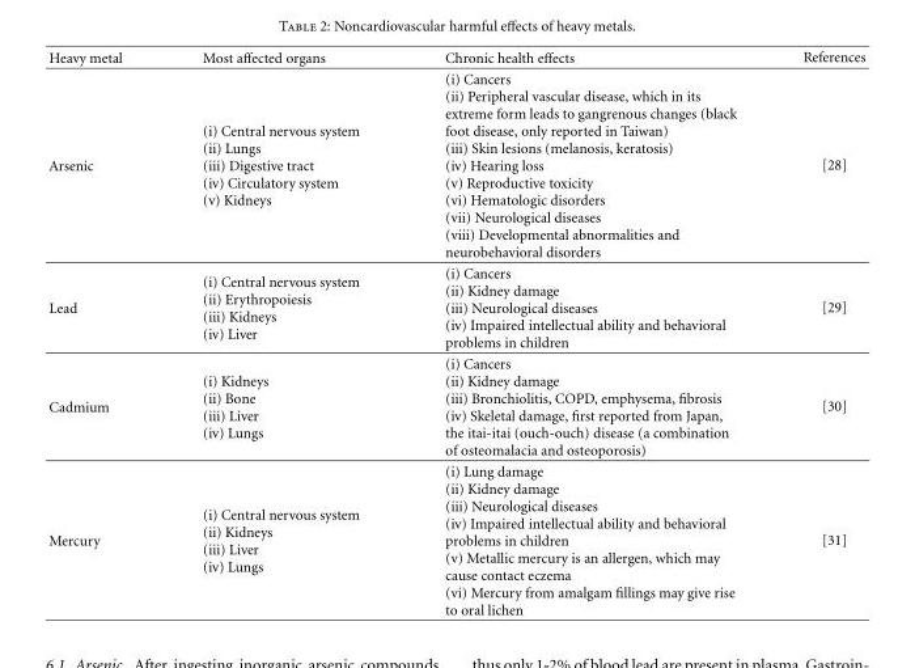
<table><thead><tr><td>Heavy metal</td><td>Most affected organs</td><td>Chronic health effects</td><td>References</td></tr></thead><tbody><tr><td>Arsenic</td><td>(i) Central nervous system (ii) Lungs (iii) Digestive tract (iv) Circulatory system (v) Kidneys</td><td>(i) Cancers (ii) Peripheral vascular disease, which in its extreme form leads to gangrenous changes (black foot disease, only reported in Taiwan) (iii) Skin lesions (melanosis, keratosis) (iv) Hearing loss (v) Reproductive toxicity (vi) Hematologic disorders (vii) Neurological diseases (viii) Developmental abnormalities and neurobehavioral disorders</td><td>[28]</td></tr><tr><td>Lead</td><td>(i) Central nervous system (ii) Erythropoiesis (iii) Kidneys (iv) Liver</td><td>(i) Cancers (ii) Kidney damage (iii) Neurological diseases (iv) Impaired intellectual ability and behavioral problems in children</td><td>[29]</td></tr><tr><td>Cadmium</td><td>(i) Kidneys (ii) Bone (iii) Liver (iv) Lungs</td><td>(i) Cancers (ii) Kidney damage (iii) Bronchiolitis, COPD, emphysema, fibrosis (iv) Skeletal damage, first reported from Japan, the itai-itai (ouch-ouch) disease (a combination of osteomalacia and osteoporosis)</td><td>[30]</td></tr><tr><td>Mercury</td><td>(i) Central nervous system (ii) Kidneys (iii) Liver (iv) Lungs</td><td>(i) Lung damage (ii) Kidney damage (iii) Neurological diseases (iv) Impaired intellectual ability and behavioral problems in children (v) Metallic mercury is an allergen, which may cause contact eczema (vi) Mercury from amalgam fillings may give rise to oral lichen</td><td>[31]</td></tr></tbody></table>